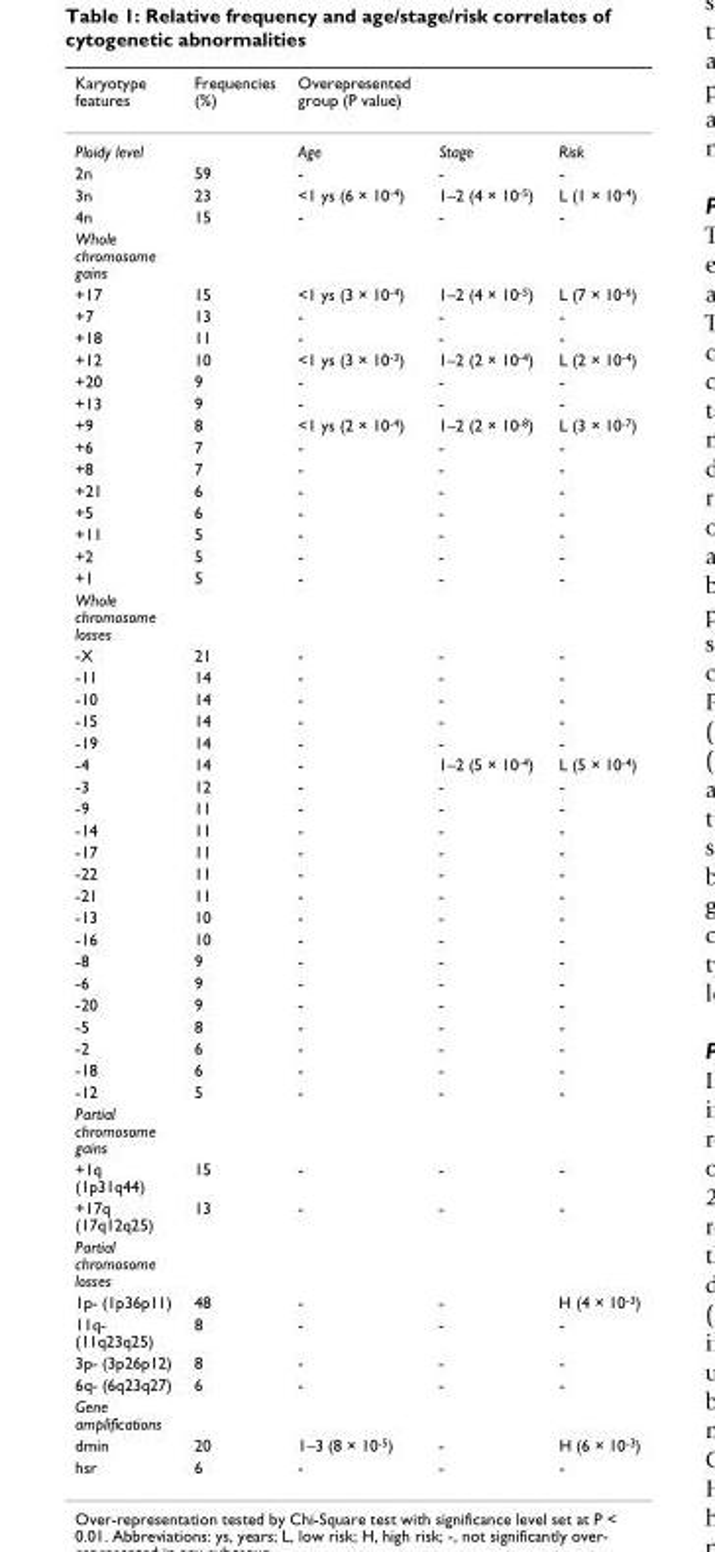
<table><thead><tr><td>Karyotype features</td><td>Frequencies (%)</td><td>Overepresented group (P value)</td><td></td><td></td></tr></thead><tbody><tr><td>Ploidy level</td><td></td><td>Age</td><td>Stage</td><td>Risk</td></tr><tr><td>2n</td><td>59</td><td>-</td><td>-</td><td>-</td></tr><tr><td>3n</td><td>23</td><td>&lt;1 ys (6 × 10<sup>-4</sup>)</td><td>1–2 (4 × 10<sup>-5</sup>)</td><td>L (1 × 10<sup>-4</sup>)</td></tr><tr><td>4n</td><td>15</td><td>-</td><td>-</td><td>-</td></tr><tr><td colspan="5">Whole chromosome gains</td></tr><tr><td>+17</td><td>15</td><td>&lt;1 ys (3 × 10<sup>-4</sup>)</td><td>1–2 (4 × 10<sup>-5</sup>)</td><td>L (7 × 10<sup>-6</sup>)</td></tr><tr><td>+7</td><td>13</td><td>-</td><td>-</td><td>-</td></tr><tr><td>+18</td><td>11</td><td>-</td><td>-</td><td>-</td></tr><tr><td>+12</td><td>10</td><td>&lt;1 ys (3 × 10<sup>-3</sup>)</td><td>1–2 (2 × 10<sup>-4</sup>)</td><td>L (2 × 10<sup>-4</sup>)</td></tr><tr><td>+20</td><td>9</td><td>-</td><td>-</td><td>-</td></tr><tr><td>+13</td><td>9</td><td>-</td><td>-</td><td>-</td></tr><tr><td>+9</td><td>8</td><td>&lt;1 ys (2 × 10<sup>-4</sup>)</td><td>1–2 (2 × 10<sup>-8</sup>)</td><td>L (3 × 10<sup>-7</sup>)</td></tr><tr><td>+6</td><td>7</td><td>-</td><td>-</td><td>-</td></tr><tr><td>+8</td><td>7</td><td>-</td><td>-</td><td>-</td></tr><tr><td>+21</td><td>6</td><td>-</td><td>-</td><td>-</td></tr><tr><td>+5</td><td>6</td><td>-</td><td>-</td><td>-</td></tr><tr><td>+11</td><td>5</td><td>-</td><td>-</td><td>-</td></tr><tr><td>+2</td><td>5</td><td>-</td><td>-</td><td>-</td></tr><tr><td>+1</td><td>5</td><td>-</td><td>-</td><td>-</td></tr><tr><td colspan="5">Whole chromosome losses</td></tr><tr><td>-X</td><td>21</td><td>-</td><td>-</td><td>-</td></tr><tr><td>-11</td><td>14</td><td>-</td><td>-</td><td>-</td></tr><tr><td>-10</td><td>14</td><td>-</td><td>-</td><td>-</td></tr><tr><td>-15</td><td>14</td><td>-</td><td>-</td><td>-</td></tr><tr><td>-19</td><td>14</td><td>-</td><td>-</td><td>-</td></tr><tr><td>-4</td><td>14</td><td>-</td><td>1–2 (5 × 10<sup>-4</sup>)</td><td>L (5 × 10<sup>-4</sup>)</td></tr><tr><td>-3</td><td>12</td><td>-</td><td>-</td><td>-</td></tr><tr><td>-9</td><td>11</td><td>-</td><td>-</td><td>-</td></tr><tr><td>-14</td><td>11</td><td>-</td><td>-</td><td>-</td></tr><tr><td>-17</td><td>11</td><td>-</td><td>-</td><td>-</td></tr><tr><td>-22</td><td>11</td><td>-</td><td>-</td><td>-</td></tr><tr><td>-21</td><td>11</td><td>-</td><td>-</td><td>-</td></tr><tr><td>-13</td><td>10</td><td>-</td><td>-</td><td>-</td></tr><tr><td>-16</td><td>10</td><td>-</td><td>-</td><td>-</td></tr><tr><td>-8</td><td>9</td><td>-</td><td>-</td><td>-</td></tr><tr><td>-6</td><td>9</td><td>-</td><td>-</td><td>-</td></tr><tr><td>-20</td><td>9</td><td>-</td><td>-</td><td>-</td></tr><tr><td>-5</td><td>8</td><td>-</td><td>-</td><td>-</td></tr><tr><td>-2</td><td>6</td><td>-</td><td>-</td><td>-</td></tr><tr><td>-18</td><td>6</td><td>-</td><td>-</td><td>-</td></tr><tr><td>-12</td><td>5</td><td>-</td><td>-</td><td>-</td></tr><tr><td colspan="5">Partial chromosome gains</td></tr><tr><td>+1q (1p31q44)</td><td>15</td><td>-</td><td>-</td><td>-</td></tr><tr><td>+17q (17q12q25)</td><td>13</td><td>-</td><td>-</td><td>-</td></tr><tr><td colspan="5">Partial chromosome losses</td></tr><tr><td>1p- (1p36p11)</td><td>48</td><td>-</td><td>-</td><td>H (4 × 10<sup>-3</sup>)</td></tr><tr><td>11q- (11q23q25)</td><td>8</td><td>-</td><td>-</td><td>-</td></tr><tr><td>3p- (3p26p12)</td><td>8</td><td>-</td><td>-</td><td>-</td></tr><tr><td>6q- (6q23q27)</td><td>6</td><td>-</td><td>-</td><td>-</td></tr><tr><td colspan="5">Gene amplifications</td></tr><tr><td>dmin</td><td>20</td><td>1–3 (8 × 10<sup>-5</sup>)</td><td>-</td><td>H (6 × 10<sup>-3</sup>)</td></tr><tr><td>hsr</td><td>6</td><td>-</td><td>-</td><td>-</td></tr></tbody></table>